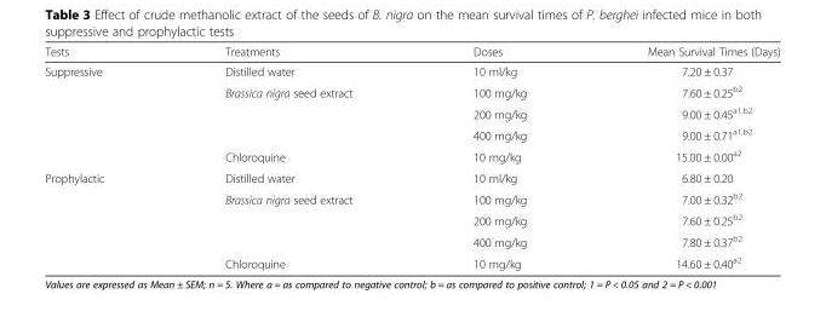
<table><thead><tr><td>Tests</td><td>Treatments</td><td>Doses</td><td>Mean Survival Times (Days)</td></tr></thead><tbody><tr><td rowspan="5">Suppressive</td><td>Distilled water</td><td>10 ml/kg</td><td>7.20 ± 0.37</td></tr><tr><td rowspan="3">Brassica nigra seed extract</td><td>100 mg/kg</td><td>7.60 ± 0.25<sup>b2</sup></td></tr><tr><td>200 mg/kg</td><td>9.00 ± 0.45<sup>a1,b2</sup></td></tr><tr><td>400 mg/kg</td><td>9.00 ± 0.71<sup>a1,b2</sup></td></tr><tr><td>Chloroquine</td><td>10 mg/kg</td><td>15.00 ± 0.00<sup>a2</sup></td></tr><tr><td rowspan="5">Prophylactic</td><td>Distilled water</td><td>10 ml/kg</td><td>6.80 ± 0.20</td></tr><tr><td rowspan="3">Brassica nigra seed extract</td><td>100 mg/kg</td><td>7.00 ± 0.32<sup>b2</sup></td></tr><tr><td>200 mg/kg</td><td>7.60 ± 0.25<sup>b2</sup></td></tr><tr><td>400 mg/kg</td><td>7.80 ± 0.37<sup>b2</sup></td></tr><tr><td>Chloroquine</td><td>10 mg/kg</td><td>14.60 ± 0.40<sup>a2</sup></td></tr></tbody></table>